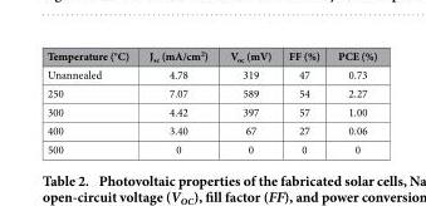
<table><thead><tr><td>Temperature (°C)</td><td>J<sub>sc</sub> (mA/cm<sup>2</sup>)</td><td>V<sub>oc</sub> (mV)</td><td>FF (%)</td><td>PCE (%)</td></tr></thead><tbody><tr><td>Unannealed</td><td>4.78</td><td>319</td><td>47</td><td>0.73</td></tr><tr><td>250</td><td>7.07</td><td>589</td><td>54</td><td>2.27</td></tr><tr><td>300</td><td>4.42</td><td>397</td><td>57</td><td>1.00</td></tr><tr><td>400</td><td>3.40</td><td>67</td><td>27</td><td>0.06</td></tr><tr><td>500</td><td>0</td><td>0</td><td>0</td><td>0</td></tr></tbody></table>